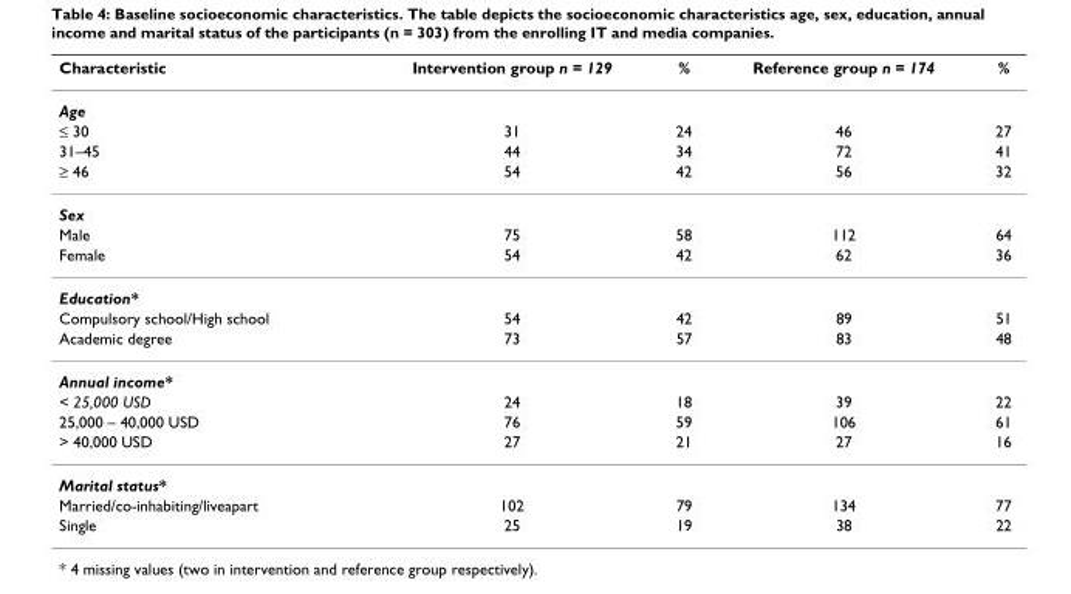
<table><thead><tr><td>Characteristic</td><td>Intervention group n = 129</td><td>%</td><td>Reference group n = 174</td><td>%</td></tr></thead><tbody><tr><td colspan="5">Age</td></tr><tr><td>≤ 30</td><td>31</td><td>24</td><td>46</td><td>27</td></tr><tr><td>31–45</td><td>44</td><td>34</td><td>72</td><td>41</td></tr><tr><td>≥ 46</td><td>54</td><td>42</td><td>56</td><td>32</td></tr><tr><td colspan="5">Sex</td></tr><tr><td>Male</td><td>75</td><td>58</td><td>112</td><td>64</td></tr><tr><td>Female</td><td>54</td><td>42</td><td>62</td><td>36</td></tr><tr><td colspan="5">Education*</td></tr><tr><td>Compulsory school/High school</td><td>54</td><td>42</td><td>89</td><td>51</td></tr><tr><td>Academic degree</td><td>73</td><td>57</td><td>83</td><td>48</td></tr><tr><td colspan="5">Annual income*</td></tr><tr><td>&lt; 25,000 USD</td><td>24</td><td>18</td><td>39</td><td>22</td></tr><tr><td>25,000 – 40,000 USD</td><td>76</td><td>59</td><td>106</td><td>61</td></tr><tr><td>&gt; 40,000 USD</td><td>27</td><td>21</td><td>27</td><td>16</td></tr><tr><td colspan="5">Marital status*</td></tr><tr><td>Married/co-inhabiting/liveapart</td><td>102</td><td>79</td><td>134</td><td>77</td></tr><tr><td>Single</td><td>25</td><td>19</td><td>38</td><td>22</td></tr></tbody></table>